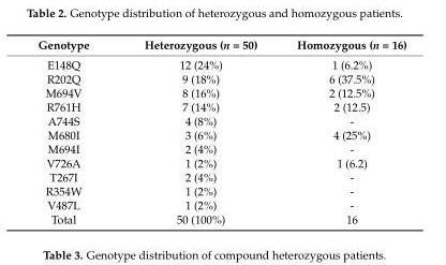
<table><thead><tr><td>Genotype</td><td>Heterozygous (n = 50)</td><td>Homozygous (n = 16)</td></tr></thead><tbody><tr><td>E148Q</td><td>12 (24%)</td><td>1 (6.2%)</td></tr><tr><td>R202Q</td><td>9 (18%)</td><td>6 (37.5%)</td></tr><tr><td>M694V</td><td>8 (16%)</td><td>2 (12.5%)</td></tr><tr><td>R761H</td><td>7 (14%)</td><td>2 (12.5)</td></tr><tr><td>A744S</td><td>4 (8%)</td><td>-</td></tr><tr><td>M680I</td><td>3 (6%)</td><td>4 (25%)</td></tr><tr><td>M694I</td><td>2 (4%)</td><td>-</td></tr><tr><td>V726A</td><td>1 (2%)</td><td>1 (6.2)</td></tr><tr><td>T267I</td><td>2 (4%)</td><td>-</td></tr><tr><td>R354W</td><td>1 (2%)</td><td>-</td></tr><tr><td>V487L</td><td>1 (2%)</td><td>-</td></tr><tr><td>Total</td><td>50 (100%)</td><td>16</td></tr></tbody></table>